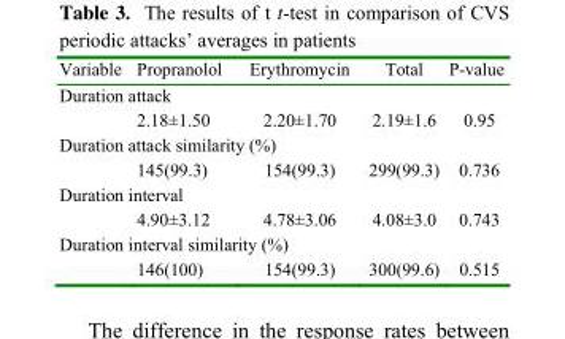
<table><thead><tr><td>Variable</td><td>Propranolol</td><td>Erythromycin</td><td>Total</td><td>P-value</td></tr></thead><tbody><tr><td colspan="5">Duration attack</td></tr><tr><td></td><td>2.18±1.50</td><td>2.20±1.70</td><td>2.19±1.6</td><td>0.95</td></tr><tr><td colspan="5">Duration attack similarity (%)</td></tr><tr><td></td><td>145(99.3)</td><td>154(99.3)</td><td>299(99.3)</td><td>0.736</td></tr><tr><td colspan="5">Duration interval</td></tr><tr><td></td><td>4.90±3.12</td><td>4.78±3.06</td><td>4.08±3.0</td><td>0.743</td></tr><tr><td colspan="5">Duration interval similarity (%)</td></tr><tr><td></td><td>146(100)</td><td>154(99.3)</td><td>300(99.6)</td><td>0.515</td></tr></tbody></table>